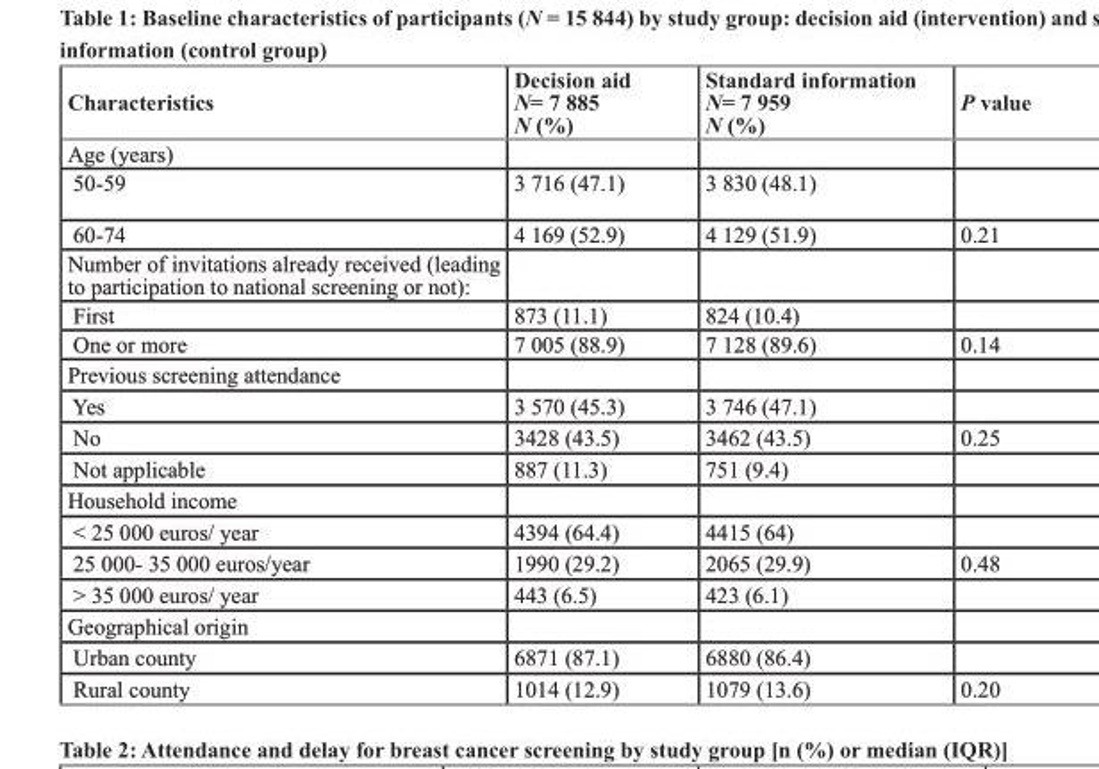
<table><thead><tr><td>Characteristics</td><td>Decision aid N= 7 885 N (%)</td><td>Standard information N= 7 959 N (%)</td><td>P value</td></tr></thead><tbody><tr><td colspan="4">Age (years)</td></tr><tr><td>50-59</td><td>3 716 (47.1)</td><td>3 830 (48.1)</td><td></td></tr><tr><td>60-74</td><td>4 169 (52.9)</td><td>4 129 (51.9)</td><td>0.21</td></tr><tr><td colspan="4">Number of invitations already received (leading to participation to national screening or not):</td></tr><tr><td>First</td><td>873 (11.1)</td><td>824 (10.4)</td><td></td></tr><tr><td>One or more</td><td>7 005 (88.9)</td><td>7 128 (89.6)</td><td>0.14</td></tr><tr><td colspan="4">Previous screening attendance</td></tr><tr><td>Yes</td><td>3 570 (45.3)</td><td>3 746 (47.1)</td><td></td></tr><tr><td>No</td><td>3428 (43.5)</td><td>3462 (43.5)</td><td>0.25</td></tr><tr><td>Not applicable</td><td>887 (11.3)</td><td>751 (9.4)</td><td></td></tr><tr><td colspan="4">Household income</td></tr><tr><td>&lt; 25 000 euros/ year</td><td>4394 (64.4)</td><td>4415 (64)</td><td></td></tr><tr><td>25 000- 35 000 euros/year</td><td>1990 (29.2)</td><td>2065 (29.9)</td><td>0.48</td></tr><tr><td>&gt; 35 000 euros/ year</td><td>443 (6.5)</td><td>423 (6.1)</td><td></td></tr><tr><td colspan="4">Geographical origin</td></tr><tr><td>Urban county</td><td>6871 (87.1)</td><td>6880 (86.4)</td><td></td></tr><tr><td>Rural county</td><td>1014 (12.9)</td><td>1079 (13.6)</td><td>0.20</td></tr></tbody></table>